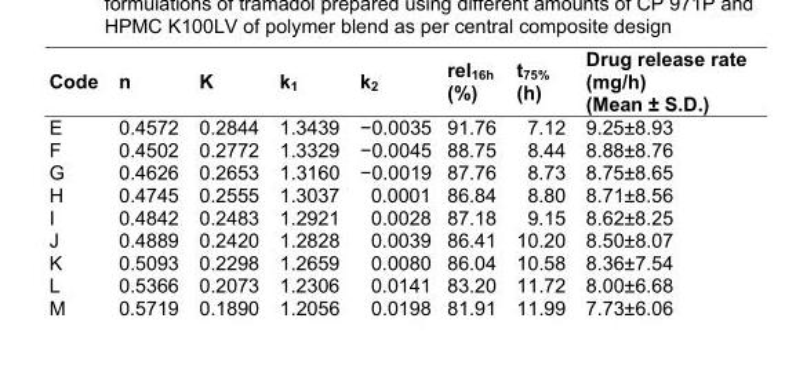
<table><thead><tr><td>Code</td><td>n</td><td>K</td><td>k<sub>1</sub></td><td>k<sub>2</sub></td><td>rel<sub>16h</sub> (%)</td><td>t<sub>75%</sub> (h)</td><td>Drug release rate (mg/h) (Mean ± S.D.)</td></tr></thead><tbody><tr><td>E</td><td>0.4572</td><td>0.2844</td><td>1.3439</td><td>−0.0035</td><td>91.76</td><td>7.12</td><td>9.25±8.93</td></tr><tr><td>F</td><td>0.4502</td><td>0.2772</td><td>1.3329</td><td>−0.0045</td><td>88.75</td><td>8.44</td><td>8.88±8.76</td></tr><tr><td>G</td><td>0.4626</td><td>0.2653</td><td>1.3160</td><td>−0.0019</td><td>87.76</td><td>8.73</td><td>8.75±8.65</td></tr><tr><td>H</td><td>0.4745</td><td>0.2555</td><td>1.3037</td><td>0.0001</td><td>86.84</td><td>8.80</td><td>8.71±8.56</td></tr><tr><td>I</td><td>0.4842</td><td>0.2483</td><td>1.2921</td><td>0.0028</td><td>87.18</td><td>9.15</td><td>8.62±8.25</td></tr><tr><td>J</td><td>0.4889</td><td>0.2420</td><td>1.2828</td><td>0.0039</td><td>86.41</td><td>10.20</td><td>8.50±8.07</td></tr><tr><td>K</td><td>0.5093</td><td>0.2298</td><td>1.2659</td><td>0.0080</td><td>86.04</td><td>10.58</td><td>8.36±7.54</td></tr><tr><td>L</td><td>0.5366</td><td>0.2073</td><td>1.2306</td><td>0.0141</td><td>83.20</td><td>11.72</td><td>8.00±6.68</td></tr><tr><td>M</td><td>0.5719</td><td>0.1890</td><td>1.2056</td><td>0.0198</td><td>81.91</td><td>11.99</td><td>7.73±6.06</td></tr></tbody></table>